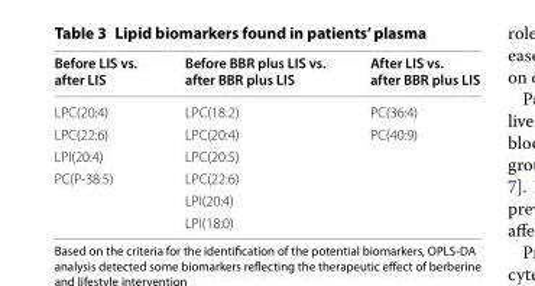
<table><thead><tr><td>Before LIS vs. after LIS</td><td>Before BBR plus LIS vs. after BBR plus LIS</td><td>After LIS vs. after BBR plus LIS</td></tr></thead><tbody><tr><td>LPC(20:4)</td><td>LPC(18:2)</td><td>PC(36:4)</td></tr><tr><td>LPC(22:6)</td><td>LPC(20:4)</td><td>PC(40:9)</td></tr><tr><td>LPI(20:4)</td><td>LPC(20:5)</td><td></td></tr><tr><td rowspan="3">PC(P-38:5)</td><td>LPC(22:6)</td><td></td></tr><tr><td>LPI(20:4)</td><td></td></tr><tr><td>LPI(18:0)</td><td></td></tr></tbody></table>